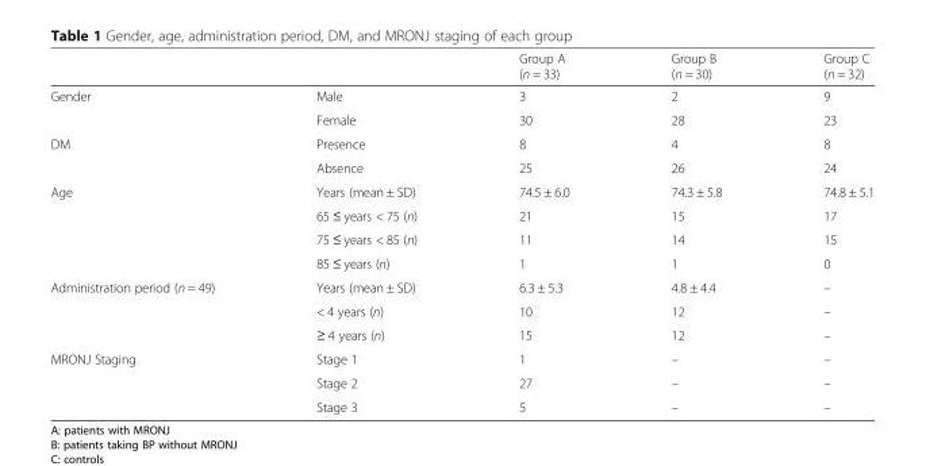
<table><thead><tr><td></td><td></td><td>Group A (n = 33)</td><td>Group B (n = 30)</td><td>Group C (n = 32)</td></tr></thead><tbody><tr><td rowspan="2">Gender</td><td>Male</td><td>3</td><td>2</td><td>9</td></tr><tr><td>Female</td><td>30</td><td>28</td><td>23</td></tr><tr><td rowspan="2">DM</td><td>Presence</td><td>8</td><td>4</td><td>8</td></tr><tr><td>Absence</td><td>25</td><td>26</td><td>24</td></tr><tr><td rowspan="4">Age</td><td>Years (mean ± SD)</td><td>74.5 ± 6.0</td><td>74.3 ± 5.8</td><td>74.8 ± 5.1</td></tr><tr><td>65 ≤ years &lt; 75 (n)</td><td>21</td><td>15</td><td>17</td></tr><tr><td>75 ≤ years &lt; 85 (n)</td><td>11</td><td>14</td><td>15</td></tr><tr><td>85 ≤ years (n)</td><td>1</td><td>1</td><td>0</td></tr><tr><td rowspan="3">Administration period (n = 49)</td><td>Years (mean ± SD)</td><td>6.3 ± 5.3</td><td>4.8 ± 4.4</td><td>–</td></tr><tr><td>&lt; 4 years (n)</td><td>10</td><td>12</td><td>–</td></tr><tr><td>≥ 4 years (n)</td><td>15</td><td>12</td><td>–</td></tr><tr><td rowspan="3">MRONJ Staging</td><td>Stage 1</td><td>1</td><td>–</td><td>–</td></tr><tr><td>Stage 2</td><td>27</td><td>–</td><td>–</td></tr><tr><td>Stage 3</td><td>5</td><td>–</td><td>–</td></tr></tbody></table>